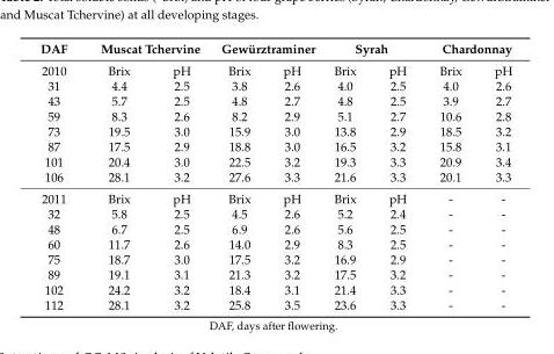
<table><thead><tr><td rowspan="2">DAF 2010</td><td colspan="2">Muscat Tchervine</td><td colspan="2">Gewürztraminer</td><td colspan="2">Syrah</td><td colspan="2">Chardonnay</td></tr><tr><td>Brix</td><td>pH</td><td>Brix</td><td>pH</td><td>Brix</td><td>pH</td><td>Brix</td><td>pH</td></tr></thead><tbody><tr><td>31</td><td>4.4</td><td>2.5</td><td>3.8</td><td>2.6</td><td>4.0</td><td>2.5</td><td>4.0</td><td>2.6</td></tr><tr><td>43</td><td>5.7</td><td>2.5</td><td>4.8</td><td>2.7</td><td>4.8</td><td>2.5</td><td>3.9</td><td>2.7</td></tr><tr><td>59</td><td>8.3</td><td>2.6</td><td>8.2</td><td>2.9</td><td>5.1</td><td>2.7</td><td>10.6</td><td>2.8</td></tr><tr><td>73</td><td>19.5</td><td>3.0</td><td>15.9</td><td>3.0</td><td>13.8</td><td>2.9</td><td>18.5</td><td>3.2</td></tr><tr><td>87</td><td>17.5</td><td>2.9</td><td>18.8</td><td>3.0</td><td>16.5</td><td>3.2</td><td>15.8</td><td>3.1</td></tr><tr><td>101</td><td>20.4</td><td>3.0</td><td>22.5</td><td>3.2</td><td>19.3</td><td>3.3</td><td>20.9</td><td>3.4</td></tr><tr><td>106</td><td>28.1</td><td>3.2</td><td>27.6</td><td>3.3</td><td>21.6</td><td>3.3</td><td>20.1</td><td>3.3</td></tr><tr><td>2011</td><td>Brix</td><td>pH</td><td>Brix</td><td>pH</td><td>Brix</td><td>pH</td><td>-</td><td>-</td></tr><tr><td>32</td><td>5.8</td><td>2.5</td><td>4.5</td><td>2.6</td><td>5.2</td><td>2.4</td><td>-</td><td>-</td></tr><tr><td>48</td><td>6.7</td><td>2.5</td><td>6.9</td><td>2.6</td><td>5.6</td><td>2.5</td><td>-</td><td>-</td></tr><tr><td>60</td><td>11.7</td><td>2.6</td><td>14.0</td><td>2.9</td><td>8.3</td><td>2.5</td><td>-</td><td>-</td></tr><tr><td>75</td><td>18.7</td><td>3.0</td><td>17.5</td><td>3.2</td><td>16.9</td><td>2.9</td><td>-</td><td>-</td></tr><tr><td>89</td><td>19.1</td><td>3.1</td><td>21.3</td><td>3.2</td><td>17.5</td><td>3.2</td><td>-</td><td>-</td></tr><tr><td>102</td><td>24.2</td><td>3.2</td><td>18.4</td><td>3.1</td><td>21.4</td><td>3.3</td><td>-</td><td>-</td></tr><tr><td>112</td><td>28.1</td><td>3.2</td><td>25.8</td><td>3.5</td><td>23.6</td><td>3.3</td><td>-</td><td>-</td></tr></tbody></table>